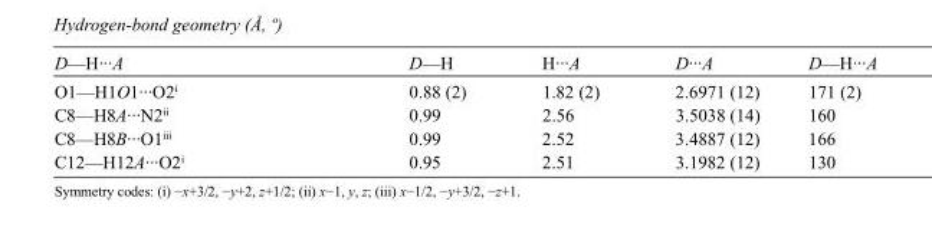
<table><tbody><tr><td>D—H···A</td><td>D—H</td><td>H···A</td><td>D···A</td><td>D—H···A</td></tr><tr><td>O1—H1O1···O2<sup>i</sup></td><td>0.88 (2)</td><td>1.82 (2)</td><td>2.6971 (12)</td><td>171 (2)</td></tr><tr><td>C8—H8A···N2<sup>ii</sup></td><td>0.99</td><td>2.56</td><td>3.5038 (14)</td><td>160</td></tr><tr><td>C8—H8B···O1<sup>iii</sup></td><td>0.99</td><td>2.52</td><td>3.4887 (12)</td><td>166</td></tr><tr><td>C12—H12A···O2<sup>i</sup></td><td>0.95</td><td>2.51</td><td>3.1982 (12)</td><td>130</td></tr></tbody></table>